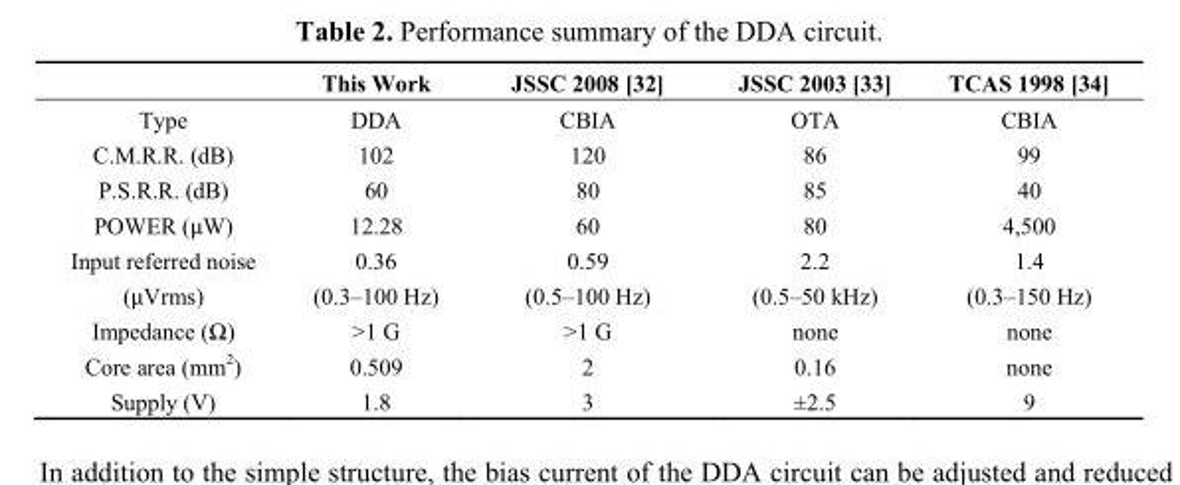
<table><thead><tr><td></td><td>This Work</td><td>JSSC 2008 [32]</td><td>JSSC 2003 [33]</td><td>TCAS 1998 [34]</td></tr></thead><tbody><tr><td>Type</td><td>DDA</td><td>CBIA</td><td>OTA</td><td>CBIA</td></tr><tr><td>C.M.R.R. (dB)</td><td>102</td><td>120</td><td>86</td><td>99</td></tr><tr><td>P.S.R.R. (dB)</td><td>60</td><td>80</td><td>85</td><td>40</td></tr><tr><td>POWER (µW)</td><td>12.28</td><td>60</td><td>80</td><td>4,500</td></tr><tr><td>Input referred noise (µVrms)</td><td>0.36 (0.3–100 Hz)</td><td>0.59 (0.5–100 Hz)</td><td>2.2 (0.5–50 kHz)</td><td>1.4 (0.3–150 Hz)</td></tr><tr><td>Impedance (Ω)</td><td>&gt;1 G</td><td>&gt;1 G</td><td>none</td><td>none</td></tr><tr><td>Core area (mm<sup>2</sup>)</td><td>0.509</td><td>2</td><td>0.16</td><td>none</td></tr><tr><td>Supply (V)</td><td>1.8</td><td>3</td><td>±2.5</td><td>9</td></tr></tbody></table>